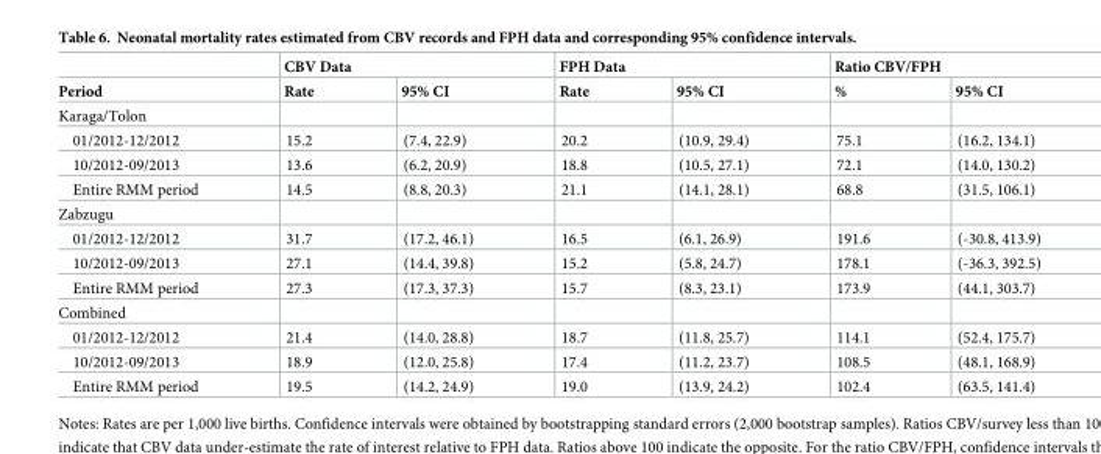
<table><thead><tr><td rowspan="2">Period</td><td colspan="2">CBV Data</td><td colspan="2">FPH Data</td><td colspan="2">Ratio CBV/FPH</td></tr><tr><td>Rate</td><td>95% CI</td><td>Rate</td><td>95% CI</td><td>%</td><td>95% CI</td></tr></thead><tbody><tr><td colspan="7">Karaga/Tolon</td></tr><tr><td>01/2012-12/2012</td><td>15.2</td><td>(7.4, 22.9)</td><td>20.2</td><td>(10.9, 29.4)</td><td>75.1</td><td>(16.2, 134.1)</td></tr><tr><td>10/2012-09/2013</td><td>13.6</td><td>(6.2, 20.9)</td><td>18.8</td><td>(10.5, 27.1)</td><td>72.1</td><td>(14.0, 130.2)</td></tr><tr><td>Entire RMM period</td><td>14.5</td><td>(8.8, 20.3)</td><td>21.1</td><td>(14.1, 28.1)</td><td>68.8</td><td>(31.5, 106.1)</td></tr><tr><td colspan="7">Zabzugu</td></tr><tr><td>01/2012-12/2012</td><td>31.7</td><td>(17.2, 46.1)</td><td>16.5</td><td>(6.1, 26.9)</td><td>191.6</td><td>(-30.8, 413.9)</td></tr><tr><td>10/2012-09/2013</td><td>27.1</td><td>(14.4, 39.8)</td><td>15.2</td><td>(5.8, 24.7)</td><td>178.1</td><td>(-36.3, 392.5)</td></tr><tr><td>Entire RMM period</td><td>27.3</td><td>(17.3, 37.3)</td><td>15.7</td><td>(8.3, 23.1)</td><td>173.9</td><td>(44.1, 303.7)</td></tr><tr><td colspan="7">Combined</td></tr><tr><td>01/2012-12/2012</td><td>21.4</td><td>(14.0, 28.8)</td><td>18.7</td><td>(11.8, 25.7)</td><td>114.1</td><td>(52.4, 175.7)</td></tr><tr><td>10/2012-09/2013</td><td>18.9</td><td>(12.0, 25.8)</td><td>17.4</td><td>(11.2, 23.7)</td><td>108.5</td><td>(48.1, 168.9)</td></tr><tr><td>Entire RMM period</td><td>19.5</td><td>(14.2, 24.9)</td><td>19.0</td><td>(13.9, 24.2)</td><td>102.4</td><td>(63.5, 141.4)</td></tr></tbody></table>